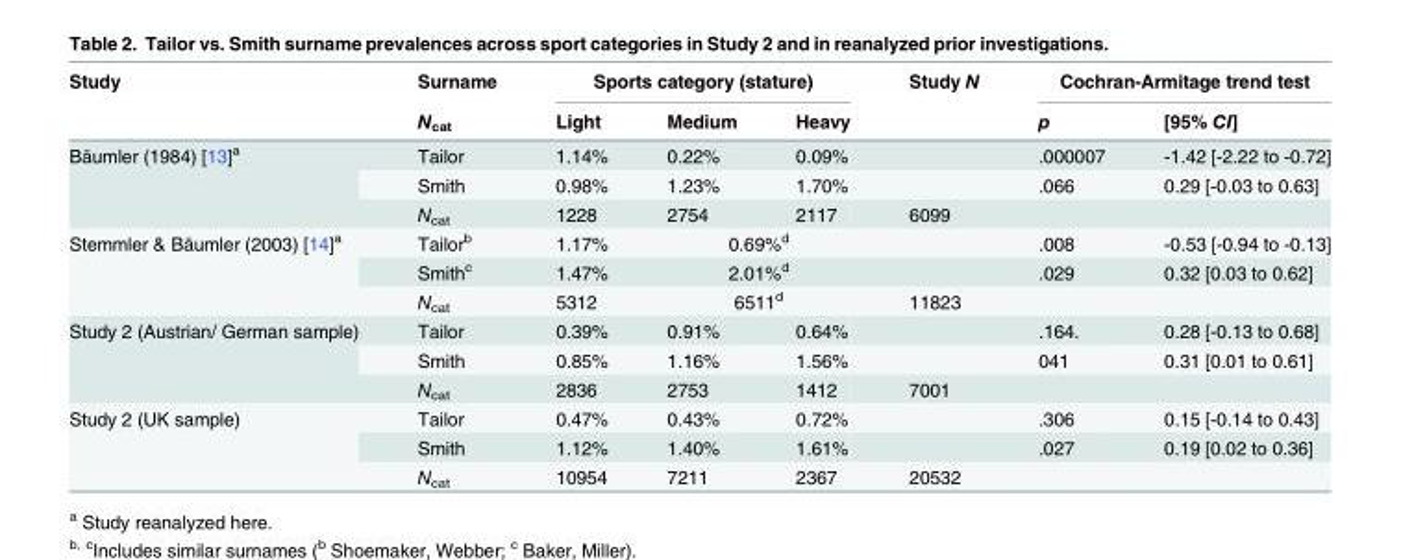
<table><thead><tr><td rowspan="2">Study</td><td rowspan="2">Surname N<sub>cat</sub></td><td colspan="3">Sports category (stature)</td><td rowspan="2">Study N</td><td colspan="2">Cochran-Armitage trend test</td></tr><tr><td>Light</td><td>Medium</td><td>Heavy</td><td>p</td><td>[95% CI]</td></tr></thead><tbody><tr><td rowspan="3">Bäumler (1984) [13]<sup>a</sup></td><td>Tailor</td><td>1.14%</td><td>0.22%</td><td>0.09%</td><td></td><td>.000007</td><td>-1.42 [-2.22 to -0.72]</td></tr><tr><td>Smith</td><td>0.98%</td><td>1.23%</td><td>1.70%</td><td></td><td>.066</td><td>0.29 [-0.03 to 0.63]</td></tr><tr><td>N<sub>cat</sub></td><td>1228</td><td>2754</td><td>2117</td><td>6099</td><td></td><td></td></tr><tr><td rowspan="3">Stemmler &amp; Bäumler (2003) [14]<sup>a</sup></td><td>Tailor<sup>b</sup></td><td>1.17%</td><td colspan="2">0.69%<sup>d</sup></td><td></td><td>.008</td><td>-0.53 [-0.94 to -0.13]</td></tr><tr><td>Smith<sup>c</sup></td><td>1.47%</td><td colspan="2">2.01%<sup>d</sup></td><td></td><td>.029</td><td>0.32 [0.03 to 0.62]</td></tr><tr><td>N<sub>cat</sub></td><td>5312</td><td colspan="2">6511<sup>d</sup></td><td>11823</td><td></td><td></td></tr><tr><td rowspan="3">Study 2 (Austrian/ German sample)</td><td>Tailor</td><td>0.39%</td><td>0.91%</td><td>0.64%</td><td></td><td>.164.</td><td>0.28 [-0.13 to 0.68]</td></tr><tr><td>Smith</td><td>0.85%</td><td>1.16%</td><td>1.56%</td><td></td><td>041</td><td>0.31 [0.01 to 0.61]</td></tr><tr><td>N<sub>cat</sub></td><td>2836</td><td>2753</td><td>1412</td><td>7001</td><td></td><td></td></tr><tr><td rowspan="3">Study 2 (UK sample)</td><td>Tailor</td><td>0.47%</td><td>0.43%</td><td>0.72%</td><td></td><td>.306</td><td>0.15 [-0.14 to 0.43]</td></tr><tr><td>Smith</td><td>1.12%</td><td>1.40%</td><td>1.61%</td><td></td><td>.027</td><td>0.19 [0.02 to 0.36]</td></tr><tr><td>N<sub>cat</sub></td><td>10954</td><td>7211</td><td>2367</td><td>20532</td><td></td><td></td></tr></tbody></table>